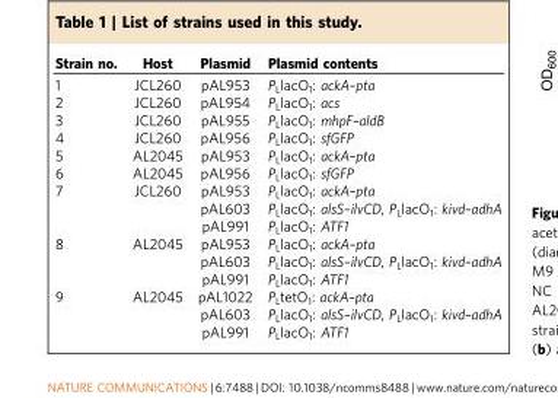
<table><thead><tr><td>Strain no.</td><td>Host</td><td>Plasmid</td><td>Plasmid contents</td></tr></thead><tbody><tr><td>1</td><td>JCL260</td><td>pAL953</td><td>P<sub>L</sub>lacO<sub>1</sub>: ackA–pta</td></tr><tr><td>2</td><td>JCL260</td><td>pAL954</td><td>P<sub>L</sub>lacO<sub>1</sub>: acs</td></tr><tr><td>3</td><td>JCL260</td><td>pAL955</td><td>P<sub>L</sub>lacO<sub>1</sub>: mhpF–aldB</td></tr><tr><td>4</td><td>JCL260</td><td>pAL956</td><td>P<sub>L</sub>lacO<sub>1</sub>: sfGFP</td></tr><tr><td>5</td><td>AL2045</td><td>pAL953</td><td>P<sub>L</sub>lacO<sub>1</sub>: ackA–pta</td></tr><tr><td>6</td><td>AL2045</td><td>pAL956</td><td>P<sub>L</sub>lacO<sub>1</sub>: sfGFP</td></tr><tr><td>7</td><td>JCL260</td><td>pAL953 pAL603 pAL991</td><td>P<sub>L</sub>lacO<sub>1</sub>: ackA–pta P<sub>L</sub>lacO<sub>1</sub>: alsS–ilvCD, P<sub>L</sub>lacO<sub>1</sub>: kivd–adhA P<sub>L</sub>lacO<sub>1</sub>: ATF1</td></tr><tr><td>8</td><td>AL2045</td><td>pAL953 pAL603 pAL991</td><td>P<sub>L</sub>lacO<sub>1</sub>: ackA–pta P<sub>L</sub>lacO<sub>1</sub>: alsS–ilvCD, P<sub>L</sub>lacO<sub>1</sub>: kivd–adhA P<sub>L</sub>lacO<sub>1</sub>: ATF1</td></tr><tr><td>9</td><td>AL2045</td><td>pAL1022 pAL603 pAL991</td><td>P<sub>L</sub>tetO<sub>1</sub>: ackA–pta P<sub>L</sub>lacO<sub>1</sub>: alsS–ilvCD, P<sub>L</sub>lacO<sub>1</sub>: kivd–adhA P<sub>L</sub>lacO<sub>1</sub>: ATF1</td></tr></tbody></table>